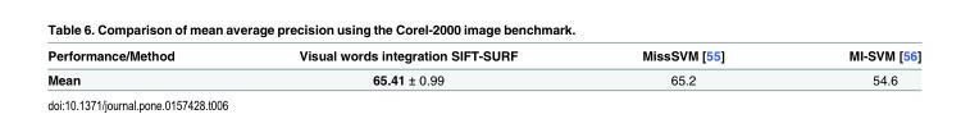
<table><thead><tr><td>Performance/Method</td><td>Visual words integration SIFT-SURF</td><td>MissSVM [55]</td><td>MI-SVM [56]</td></tr></thead><tbody><tr><td>Mean</td><td>65.41 ± 0.99</td><td>65.2</td><td>54.6</td></tr></tbody></table>